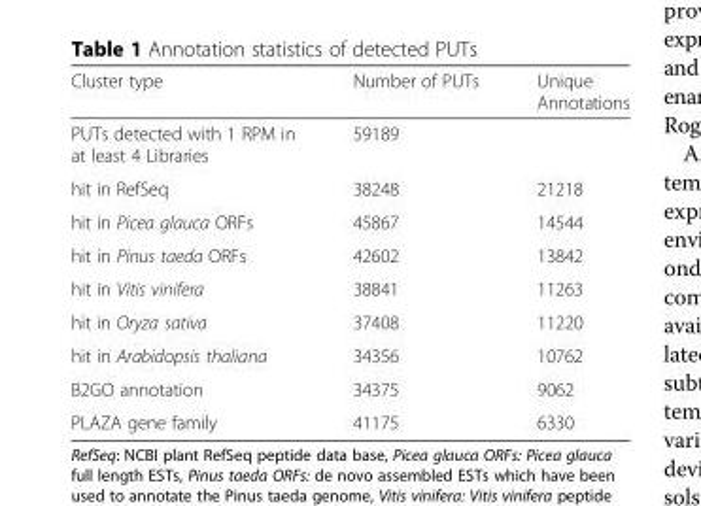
<table><thead><tr><td>Cluster type</td><td>Number of PUTs</td><td>Unique Annotations</td></tr></thead><tbody><tr><td>PUTs detected with 1 RPM in at least 4 Libraries</td><td>59189</td><td></td></tr><tr><td>hit in RefSeq</td><td>38248</td><td>21218</td></tr><tr><td>hit in Picea glauca ORFs</td><td>45867</td><td>14544</td></tr><tr><td>hit in Pinus taeda ORFs</td><td>42602</td><td>13842</td></tr><tr><td>hit in Vitis vinifera</td><td>38841</td><td>11263</td></tr><tr><td>hit in Oryza sativa</td><td>37408</td><td>11220</td></tr><tr><td>hit in Arabidopsis thaliana</td><td>34356</td><td>10762</td></tr><tr><td>B2GO annotation</td><td>34375</td><td>9062</td></tr><tr><td>PLAZA gene family</td><td>41175</td><td>6330</td></tr></tbody></table>